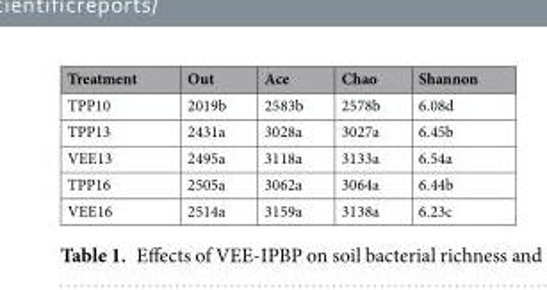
<table><thead><tr><td>Treatment</td><td>Out</td><td>Ace</td><td>Chao</td><td>Shannon</td></tr></thead><tbody><tr><td>TPP10</td><td>2019b</td><td>2583b</td><td>2578b</td><td>6.08d</td></tr><tr><td>TPP13</td><td>2431a</td><td>3028a</td><td>3027a</td><td>6.45b</td></tr><tr><td>VEE13</td><td>2495a</td><td>3118a</td><td>3133a</td><td>6.54a</td></tr><tr><td>TPP16</td><td>2505a</td><td>3062a</td><td>3064a</td><td>6.44b</td></tr><tr><td>VEE16</td><td>2514a</td><td>3159a</td><td>3138a</td><td>6.23c</td></tr></tbody></table>